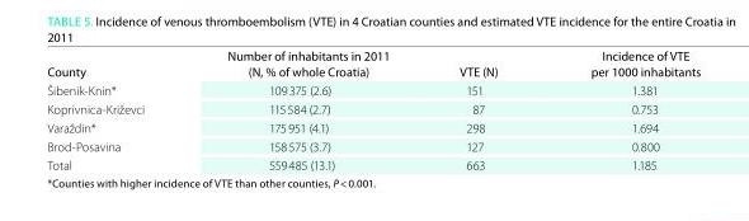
<table><thead><tr><td>County</td><td>Number of inhabitants in 2011 (N, % of whole Croatia)</td><td>Vte (N)</td><td>incidence of Vte per 1000 inhabitants</td></tr></thead><tbody><tr><td>Šibenik-Knin*</td><td>109 375 (2.6)</td><td>151</td><td>1.381</td></tr><tr><td>Koprivnica-Križevci</td><td>115 584 (2.7)</td><td>87</td><td>0.753</td></tr><tr><td>Varaždin*</td><td>175 951 (4.1)</td><td>298</td><td>1.694</td></tr><tr><td>Brod-Posavina</td><td>158 575 (3.7)</td><td>127</td><td>0.800</td></tr><tr><td>Total</td><td>559 485 (13.1)</td><td>663</td><td>1.185</td></tr></tbody></table>